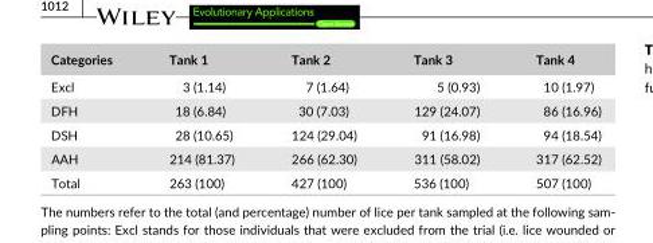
<table><thead><tr><td>Categories</td><td>Tank 1</td><td>Tank 2</td><td>Tank 3</td><td>Tank 4</td></tr></thead><tbody><tr><td>Excl</td><td>3 (1.14)</td><td>7 (1.64)</td><td>5 (0.93)</td><td>10 (1.97)</td></tr><tr><td>DFH</td><td>18 (6.84)</td><td>30 (7.03)</td><td>129 (24.07)</td><td>86 (16.96)</td></tr><tr><td>DSH</td><td>28 (10.65)</td><td>124 (29.04)</td><td>91 (16.98)</td><td>94 (18.54)</td></tr><tr><td>AAH</td><td>214 (81.37)</td><td>266 (62.30)</td><td>311 (58.02)</td><td>317 (62.52)</td></tr><tr><td>Total</td><td>263 (100)</td><td>427 (100)</td><td>536 (100)</td><td>507 (100)</td></tr></tbody></table>